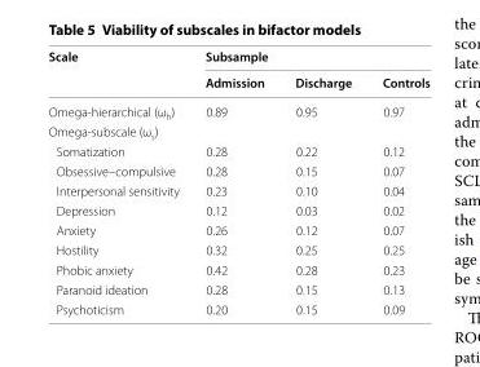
<table><thead><tr><td rowspan="2">Scale</td><td colspan="3">Subsample</td></tr><tr><td>Admission</td><td>Discharge</td><td>Controls</td></tr></thead><tbody><tr><td>Omega‑hierarchical (ω<sub>h</sub>)</td><td>0.89</td><td>0.95</td><td>0.97</td></tr><tr><td colspan="4">Omega‑subscale (ω<sub>s</sub>)</td></tr><tr><td>Somatization</td><td>0.28</td><td>0.22</td><td>0.12</td></tr><tr><td>Obsessive–compulsive</td><td>0.28</td><td>0.15</td><td>0.07</td></tr><tr><td>Interpersonal sensitivity</td><td>0.23</td><td>0.10</td><td>0.04</td></tr><tr><td>Depression</td><td>0.12</td><td>0.03</td><td>0.02</td></tr><tr><td>Anxiety</td><td>0.26</td><td>0.12</td><td>0.07</td></tr><tr><td>Hostility</td><td>0.32</td><td>0.25</td><td>0.25</td></tr><tr><td>Phobic anxiety</td><td>0.42</td><td>0.28</td><td>0.23</td></tr><tr><td>Paranoid ideation</td><td>0.28</td><td>0.15</td><td>0.13</td></tr><tr><td>Psychoticism</td><td>0.20</td><td>0.15</td><td>0.09</td></tr></tbody></table>